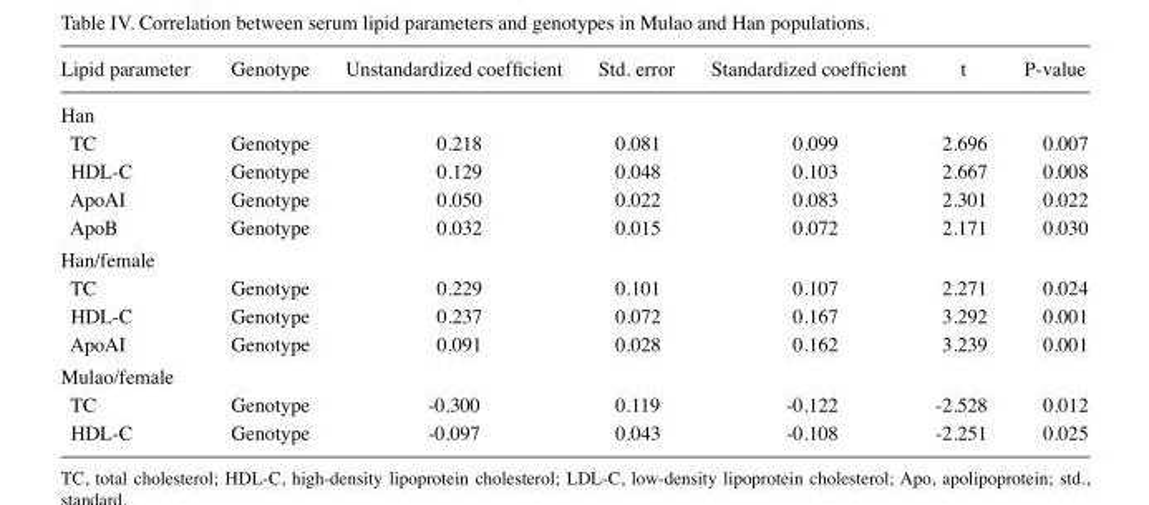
<table><thead><tr><td>Lipid parameter</td><td>Genotype</td><td>Unstandardized coefficient</td><td>Std. error</td><td>Standardized coefficient</td><td>t</td><td>P‑value</td></tr></thead><tbody><tr><td colspan="7">Han</td></tr><tr><td>TC</td><td>Genotype</td><td>0.218</td><td>0.081</td><td>0.099</td><td>2.696</td><td>0.007</td></tr><tr><td>HDL-C</td><td>Genotype</td><td>0.129</td><td>0.048</td><td>0.103</td><td>2.667</td><td>0.008</td></tr><tr><td>ApoAI</td><td>Genotype</td><td>0.050</td><td>0.022</td><td>0.083</td><td>2.301</td><td>0.022</td></tr><tr><td>ApoB</td><td>Genotype</td><td>0.032</td><td>0.015</td><td>0.072</td><td>2.171</td><td>0.030</td></tr><tr><td colspan="7">Han/female</td></tr><tr><td>TC</td><td>Genotype</td><td>0.229</td><td>0.101</td><td>0.107</td><td>2.271</td><td>0.024</td></tr><tr><td>HDL-C</td><td>Genotype</td><td>0.237</td><td>0.072</td><td>0.167</td><td>3.292</td><td>0.001</td></tr><tr><td>ApoAI</td><td>Genotype</td><td>0.091</td><td>0.028</td><td>0.162</td><td>3.239</td><td>0.001</td></tr><tr><td colspan="7">Mulao/female</td></tr><tr><td>TC</td><td>Genotype</td><td>-0.300</td><td>0.119</td><td>-0.122</td><td>-2.528</td><td>0.012</td></tr><tr><td>HDL-C</td><td>Genotype</td><td>-0.097</td><td>0.043</td><td>-0.108</td><td>-2.251</td><td>0.025</td></tr></tbody></table>